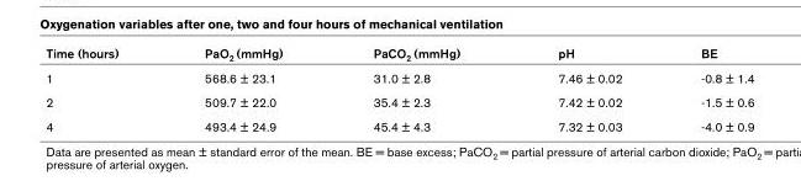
<table><thead><tr><td>Time (hours)</td><td>PaO<sub>2</sub> (mmHg)</td><td>PaCO<sub>2</sub> (mmHg)</td><td>pH</td><td>BE</td></tr></thead><tbody><tr><td>1</td><td>568.6 ± 23.1</td><td>31.0 ± 2.8</td><td>7.46 ± 0.02</td><td>-0.8 ± 1.4</td></tr><tr><td>2</td><td>509.7 ± 22.0</td><td>35.4 ± 2.3</td><td>7.42 ± 0.02</td><td>-1.5 ± 0.6</td></tr><tr><td>4</td><td>493.4 ± 24.9</td><td>45.4 ± 4.3</td><td>7.32 ± 0.03</td><td>-4.0 ± 0.9</td></tr></tbody></table>